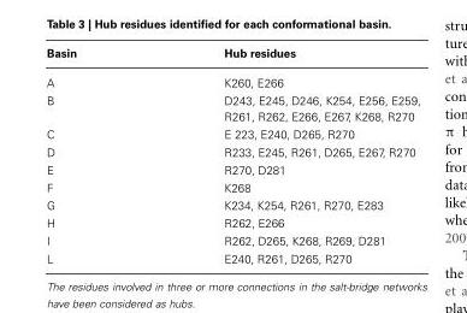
<table><thead><tr><td>Basin</td><td>Hub residues</td></tr></thead><tbody><tr><td>A</td><td>K260, E266</td></tr><tr><td>B</td><td>D243, E245, D246, K254, E256, E259, R261, R262, E266, E267, K268, R270</td></tr><tr><td>C</td><td>E 223, E240, D265, R270</td></tr><tr><td>D</td><td>R233, E245, R261, D265, E267, R270</td></tr><tr><td>E</td><td>R270, D281</td></tr><tr><td>F</td><td>K268</td></tr><tr><td>G</td><td>K234, K254, R261, R270, E283</td></tr><tr><td>H</td><td>R262, E266</td></tr><tr><td>I</td><td>R262, D265, K268, R269, D281</td></tr><tr><td>L</td><td>E240, R261, D265, R270</td></tr></tbody></table>